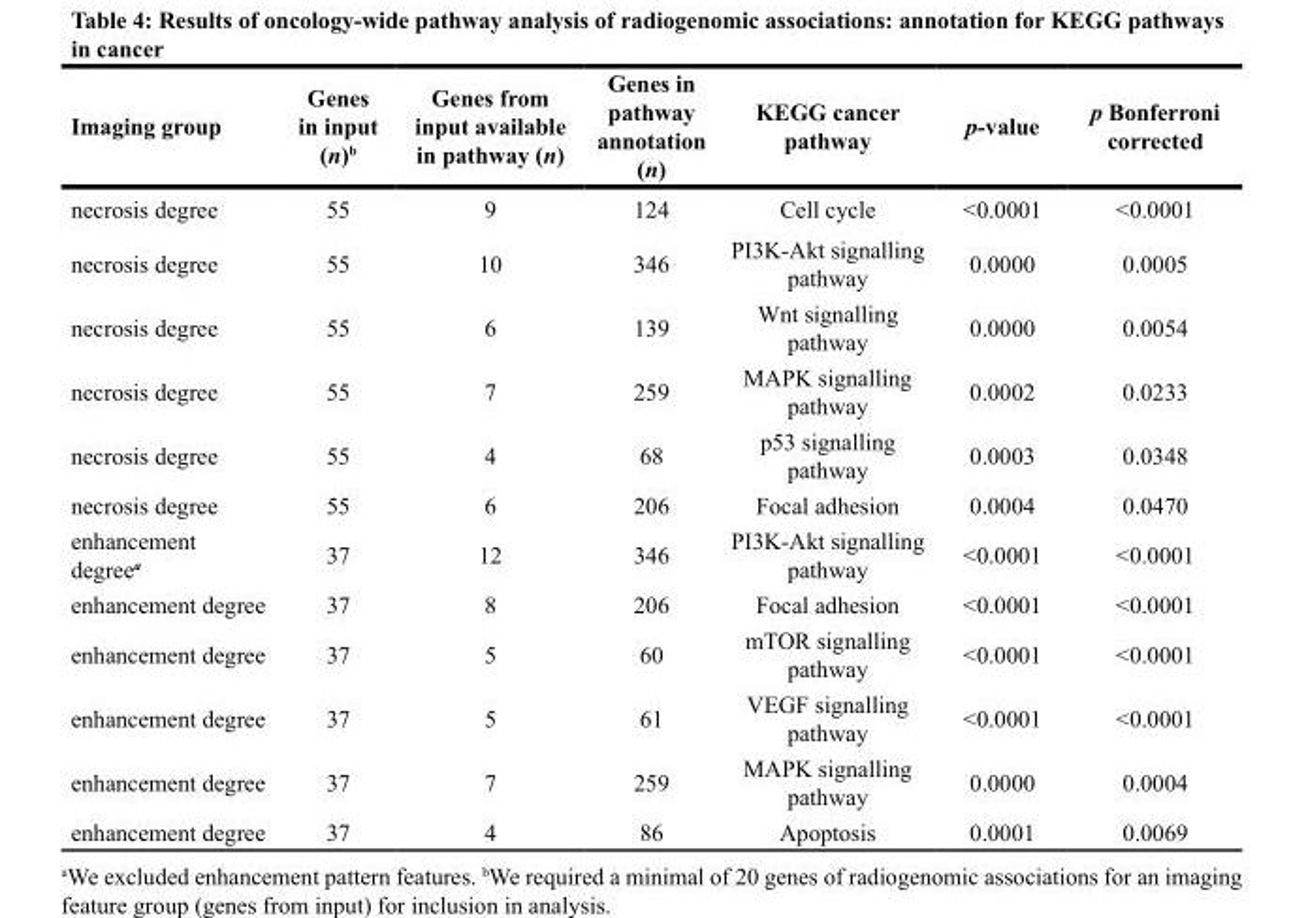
<table><thead><tr><td>Imaging group</td><td>Genes in input (n)<sup>b</sup></td><td>Genes from input available in pathway (n)</td><td>Genes in pathway annotation (n)</td><td>KEGG cancer pathway</td><td>p-value</td><td>p Bonferroni corrected</td></tr></thead><tbody><tr><td>necrosis degree</td><td>55</td><td>9</td><td>124</td><td>Cell cycle</td><td>&lt;0.0001</td><td>&lt;0.0001</td></tr><tr><td>necrosis degree</td><td>55</td><td>10</td><td>346</td><td>PI3K-Akt signalling pathway</td><td>0.0000</td><td>0.0005</td></tr><tr><td>necrosis degree</td><td>55</td><td>6</td><td>139</td><td>Wnt signalling pathway</td><td>0.0000</td><td>0.0054</td></tr><tr><td>necrosis degree</td><td>55</td><td>7</td><td>259</td><td>MAPK signalling pathway</td><td>0.0002</td><td>0.0233</td></tr><tr><td>necrosis degree</td><td>55</td><td>4</td><td>68</td><td>p53 signalling pathway</td><td>0.0003</td><td>0.0348</td></tr><tr><td>necrosis degree</td><td>55</td><td>6</td><td>206</td><td>Focal adhesion</td><td>0.0004</td><td>0.0470</td></tr><tr><td>enhancement degree<sup>a</sup></td><td>37</td><td>12</td><td>346</td><td>PI3K-Akt signalling pathway</td><td>&lt;0.0001</td><td>&lt;0.0001</td></tr><tr><td>enhancement degree</td><td>37</td><td>8</td><td>206</td><td>Focal adhesion</td><td>&lt;0.0001</td><td>&lt;0.0001</td></tr><tr><td>enhancement degree</td><td>37</td><td>5</td><td>60</td><td>mTOR signalling pathway</td><td>&lt;0.0001</td><td>&lt;0.0001</td></tr><tr><td>enhancement degree</td><td>37</td><td>5</td><td>61</td><td>VEGF signalling pathway</td><td>&lt;0.0001</td><td>&lt;0.0001</td></tr><tr><td>enhancement degree</td><td>37</td><td>7</td><td>259</td><td>MAPK signalling pathway</td><td>0.0000</td><td>0.0004</td></tr><tr><td>enhancement degree</td><td>37</td><td>4</td><td>86</td><td>Apoptosis</td><td>0.0001</td><td>0.0069</td></tr></tbody></table>